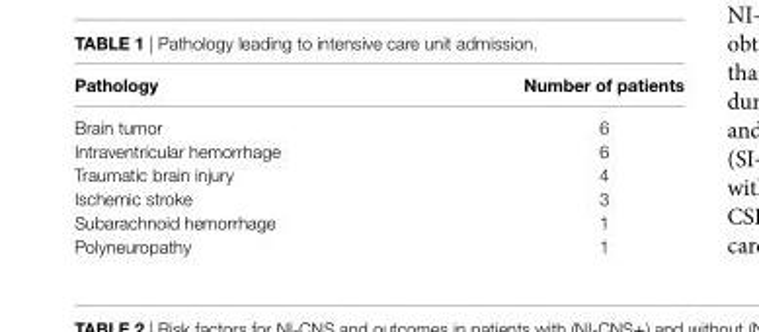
<table><thead><tr><td>Pathology</td><td>number of patients</td></tr></thead><tbody><tr><td>Brain tumor</td><td>6</td></tr><tr><td>Intraventricular hemorrhage</td><td>6</td></tr><tr><td>Traumatic brain injury</td><td>4</td></tr><tr><td>Ischemic stroke</td><td>3</td></tr><tr><td>Subarachnoid hemorrhage</td><td>1</td></tr><tr><td>Polyneuropathy</td><td>1</td></tr></tbody></table>